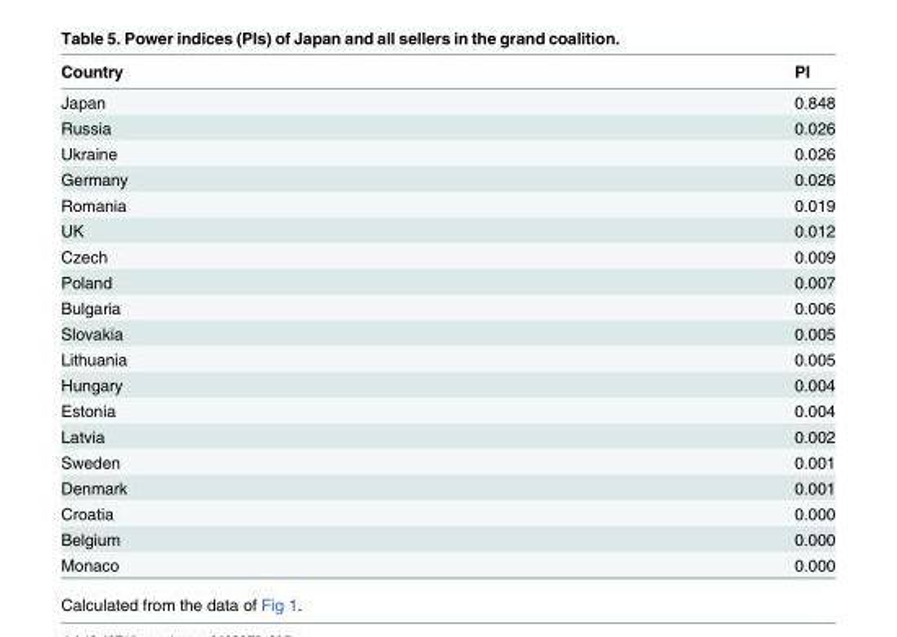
<table><thead><tr><td>Country</td><td>PI</td></tr></thead><tbody><tr><td>Japan</td><td>0.848</td></tr><tr><td>Russia</td><td>0.026</td></tr><tr><td>Ukraine</td><td>0.026</td></tr><tr><td>Germany</td><td>0.026</td></tr><tr><td>Romania</td><td>0.019</td></tr><tr><td>UK</td><td>0.012</td></tr><tr><td>Czech</td><td>0.009</td></tr><tr><td>Poland</td><td>0.007</td></tr><tr><td>Bulgaria</td><td>0.006</td></tr><tr><td>Slovakia</td><td>0.005</td></tr><tr><td>Lithuania</td><td>0.005</td></tr><tr><td>Hungary</td><td>0.004</td></tr><tr><td>Estonia</td><td>0.004</td></tr><tr><td>Latvia</td><td>0.002</td></tr><tr><td>Sweden</td><td>0.001</td></tr><tr><td>Denmark</td><td>0.001</td></tr><tr><td>Croatia</td><td>0.000</td></tr><tr><td>Belgium</td><td>0.000</td></tr><tr><td>Monaco</td><td>0.000</td></tr></tbody></table>